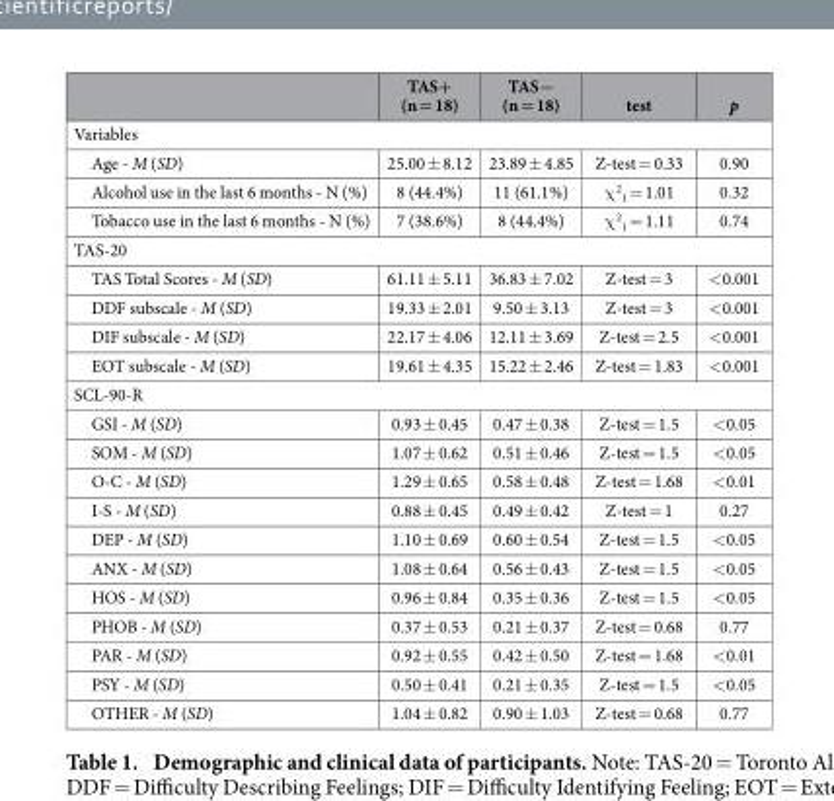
<table><thead><tr><td></td><td>TAS+ (n = 18)</td><td>TAS− (n = 18)</td><td>test</td><td>p</td></tr></thead><tbody><tr><td colspan="5">Variables</td></tr><tr><td>Age - M (SD)</td><td>25.00 ± 8.12</td><td>23.89 ± 4.85</td><td>Z-test = 0.33</td><td>0.90</td></tr><tr><td>Alcohol use in the last 6 months - N (%)</td><td>8 (44.4%)</td><td>11 (61.1%)</td><td>χ <sup>2</sup> <sub>1</sub> = 1.01</td><td>0.32</td></tr><tr><td>Tobacco use in the last 6 months - N (%)</td><td>7 (38.6%)</td><td>8 (44.4%)</td><td>χ <sup>2</sup> <sub>1</sub> = 1.11</td><td>0.74</td></tr><tr><td colspan="5">TAS-20</td></tr><tr><td>TAS Total Scores - M (SD)</td><td>61.11 ± 5.11</td><td>36.83 ± 7.02</td><td>Z-test = 3</td><td>&lt; 0.001</td></tr><tr><td>DDF subscale - M (SD)</td><td>19.33 ± 2.01</td><td>9.50 ± 3.13</td><td>Z-test = 3</td><td>&lt; 0.001</td></tr><tr><td>DIF subscale - M (SD)</td><td>22.17 ± 4.06</td><td>12.11 ± 3.69</td><td>Z-test = 2.5</td><td>&lt; 0.001</td></tr><tr><td>EOT subscale - M (SD)</td><td>19.61 ± 4.35</td><td>15.22 ± 2.46</td><td>Z-test = 1.83</td><td>&lt; 0.001</td></tr><tr><td colspan="5">SCL-90-R</td></tr><tr><td>GSI - M (SD)</td><td>0.93 ± 0.45</td><td>0.47 ± 0.38</td><td>Z-test = 1.5</td><td>&lt; 0.05</td></tr><tr><td>SOM - M (SD)</td><td>1.07 ± 0.62</td><td>0.51 ± 0.46</td><td>Z-test = 1.5</td><td>&lt; 0.05</td></tr><tr><td>O-C - M (SD)</td><td>1.29 ± 0.65</td><td>0.58 ± 0.48</td><td>Z-test = 1.68</td><td>&lt; 0.01</td></tr><tr><td>I-S - M (SD)</td><td>0.88 ± 0.45</td><td>0.49 ± 0.42</td><td>Z-test = 1</td><td>0.27</td></tr><tr><td>DEP - M (SD)</td><td>1.10 ± 0.69</td><td>0.60 ± 0.54</td><td>Z-test = 1.5</td><td>&lt; 0.05</td></tr><tr><td>ANX - M (SD)</td><td>1.08 ± 0.64</td><td>0.56 ± 0.43</td><td>Z-test = 1.5</td><td>&lt; 0.05</td></tr><tr><td>HOS - M (SD)</td><td>0.96 ± 0.84</td><td>0.35 ± 0.36</td><td>Z-test = 1.5</td><td>&lt; 0.05</td></tr><tr><td>PHOB - M (SD)</td><td>0.37 ± 0.53</td><td>0.21 ± 0.37</td><td>Z-test = 0.68</td><td>0.77</td></tr><tr><td>PAR - M (SD)</td><td>0.92 ± 0.55</td><td>0.42 ± 0.50</td><td>Z-test = 1.68</td><td>&lt; 0.01</td></tr><tr><td>PSY - M (SD)</td><td>0.50 ± 0.41</td><td>0.21 ± 0.35</td><td>Z-test = 1.5</td><td>&lt; 0.05</td></tr><tr><td>OTHER - M (SD)</td><td>1.04 ± 0.82</td><td>0.90 ± 1.03</td><td>Z-test = 0.68</td><td>0.77</td></tr></tbody></table>